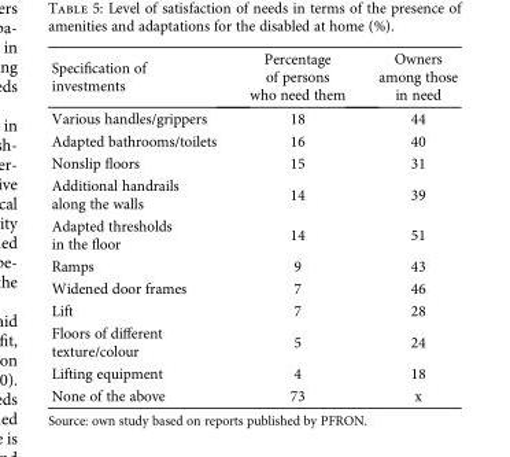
<table><thead><tr><td>Specification of investments</td><td>Percentage of persons who need them</td><td>Owners among those in need</td></tr></thead><tbody><tr><td>Various handles/grippers</td><td>18</td><td>44</td></tr><tr><td>Adapted bathrooms/toilets</td><td>16</td><td>40</td></tr><tr><td>Nonslip floors</td><td>15</td><td>31</td></tr><tr><td>Additional handrails along the walls</td><td>14</td><td>39</td></tr><tr><td>Adapted thresholds in the floor</td><td>14</td><td>51</td></tr><tr><td>Ramps</td><td>9</td><td>43</td></tr><tr><td>Widened door frames</td><td>7</td><td>46</td></tr><tr><td>Lift</td><td>7</td><td>28</td></tr><tr><td>Floors of different texture/colour</td><td>5</td><td>24</td></tr><tr><td>Lifting equipment</td><td>4</td><td>18</td></tr><tr><td>None of the above</td><td>73</td><td>x</td></tr></tbody></table>